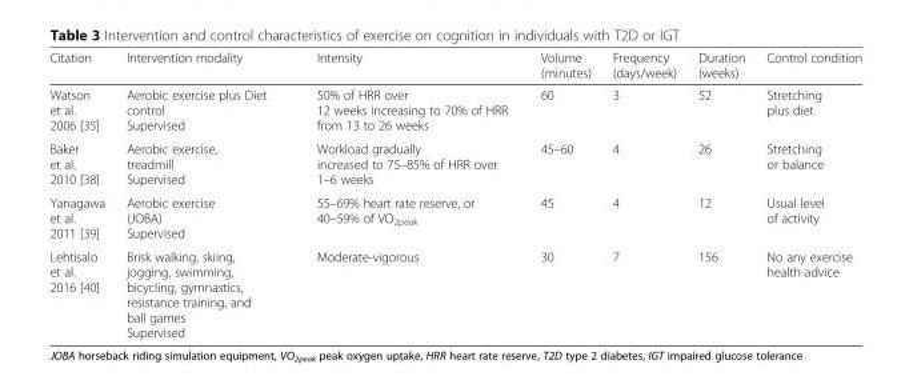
<table><thead><tr><td>Citation</td><td>Intervention modality</td><td>Intensity</td><td>Volume (minutes)</td><td>Frequency (days/week)</td><td>Duration (weeks)</td><td>Control condition</td></tr></thead><tbody><tr><td>Watson et al. 2006 [35]</td><td>Aerobic exercise plus Diet control Supervised</td><td>50% of HRR over 12 weeks increasing to 70% of HRR from 13 to 26 weeks</td><td>60</td><td>3</td><td>52</td><td>Stretching plus diet</td></tr><tr><td>Baker et al. 2010 [38]</td><td>Aerobic exercise, treadmill Supervised</td><td>Workload gradually increased to 75–85% of HRR over 1–6 weeks</td><td>45–60</td><td>4</td><td>26</td><td>Stretching or balance</td></tr><tr><td>Yanagawa et al. 2011 [39]</td><td>Aerobic exercise (JOBA) Supervised</td><td>55–69% heart rate reserve, or 40–59% of VO<sub>2peak</sub></td><td>45</td><td>4</td><td>12</td><td>Usual level of activity</td></tr><tr><td>Lehtisalo et al. 2016 [40]</td><td>Brisk walking, skiing, jogging, swimming, bicycling, gymnastics, resistance training, and ball games Supervised</td><td>Moderate-vigorous</td><td>30</td><td>7</td><td>156</td><td>No any exercise health advice</td></tr></tbody></table>